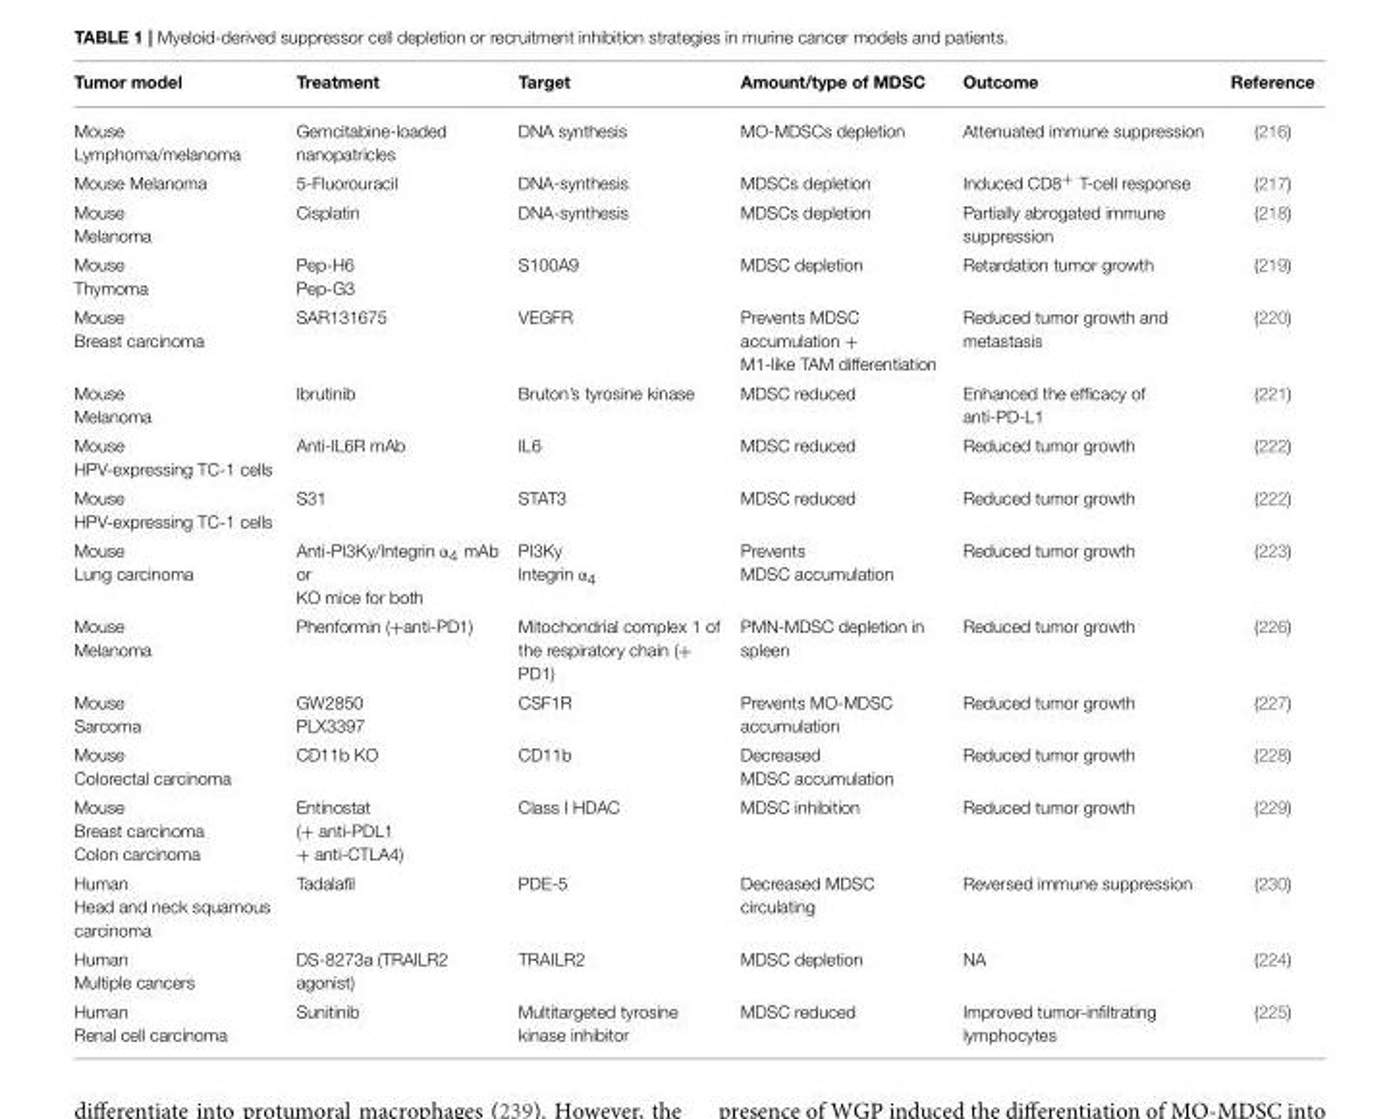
<table><thead><tr><td>Tumor model</td><td>Treatment</td><td>Target</td><td>Amount/type of MDSC</td><td>Outcome</td><td>Reference</td></tr></thead><tbody><tr><td>Mouse Lymphoma/melanoma</td><td>Gemcitabine-loaded nanopatricles</td><td>DNA synthesis</td><td>MO-MDSCs depletion</td><td>Attenuated immune suppression</td><td>(216)</td></tr><tr><td>Mouse Melanoma</td><td>5-Fluorouracil</td><td>DNA-synthesis</td><td>MDSCs depletion</td><td>Induced CD8<sup>+</sup> T-cell response</td><td>(217)</td></tr><tr><td>Mouse Melanoma</td><td>Cisplatin</td><td>DNA-synthesis</td><td>MDSCs depletion</td><td>Partially abrogated immune suppression</td><td>(218)</td></tr><tr><td>Mouse Thymoma</td><td>Pep-H6 Pep-G3</td><td>S100A9</td><td>MDSC depletion</td><td>Retardation tumor growth</td><td>(219)</td></tr><tr><td>Mouse Breast carcinoma</td><td>SAR131675</td><td>VEGFR</td><td>Prevents MDSC accumulation + M1-like TAM differentiation</td><td>Reduced tumor growth and metastasis</td><td>(220)</td></tr><tr><td>Mouse Melanoma</td><td>Ibrutinib</td><td>Bruton’s tyrosine kinase</td><td>MDSC reduced</td><td>Enhanced the efficacy of anti-PD-L1</td><td>(221)</td></tr><tr><td>Mouse HPV-expressing TC-1 cells</td><td>Anti-IL6R mAb</td><td>IL6</td><td>MDSC reduced</td><td>Reduced tumor growth</td><td>(222)</td></tr><tr><td>Mouse HPV-expressing TC-1 cells</td><td>S31</td><td>STAT3</td><td>MDSC reduced</td><td>Reduced tumor growth</td><td>(222)</td></tr><tr><td>Mouse Lung carcinoma</td><td>Anti-PI3Ky/Integrin α4 mAb or KO mice for both</td><td>PI3Ky Integrin α<sub>4</sub></td><td>Prevents MDSC accumulation</td><td>Reduced tumor growth</td><td>(223)</td></tr><tr><td>Mouse Melanoma</td><td>Phenformin (+anti-PD1)</td><td>Mitochondrial complex 1 of the respiratory chain (+ PD1)</td><td>PMN-MDSC depletion in spleen</td><td>Reduced tumor growth</td><td>(226)</td></tr><tr><td>Mouse Sarcoma</td><td>GW2850 PLX3397</td><td>CSF1R</td><td>Prevents MO-MDSC accumulation</td><td>Reduced tumor growth</td><td>(227)</td></tr><tr><td>Mouse Colorectal carcinoma</td><td>CD11b KO</td><td>CD11b</td><td>Decreased MDSC accumulation</td><td>Reduced tumor growth</td><td>(228)</td></tr><tr><td>Mouse Breast carcinoma Colon carcinoma</td><td>Entinostat (+ anti-PDL1 + anti-CTLA4)</td><td>Class I HDAC</td><td>MDSC inhibition</td><td>Reduced tumor growth</td><td>(229)</td></tr><tr><td>Human Head and neck squamous carcinoma</td><td>Tadalafil</td><td>PDE-5</td><td>Decreased MDSC circulating</td><td>Reversed immune suppression</td><td>(230)</td></tr><tr><td>Human Multiple cancers</td><td>DS-8273a (TRAILR2 agonist)</td><td>TRAILR2</td><td>MDSC depletion</td><td>NA</td><td>(224)</td></tr><tr><td>Human Renal cell carcinoma</td><td>Sunitinib</td><td>Multitargeted tyrosine kinase inhibitor</td><td>MDSC reduced</td><td>Improved tumor-infiltrating lymphocytes</td><td>(225)</td></tr></tbody></table>